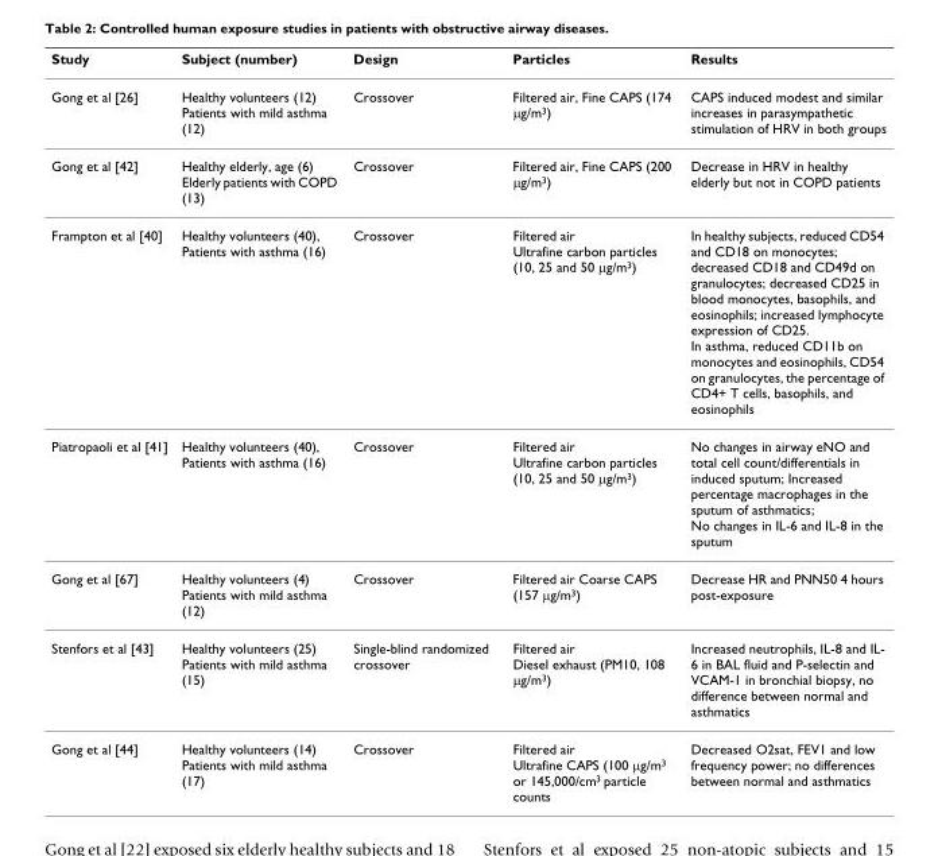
<table><thead><tr><td>Study</td><td>Subject (number)</td><td>Design</td><td>Particles</td><td>Results</td></tr></thead><tbody><tr><td>Gong et al [26]</td><td>Healthy volunteers (12) Patients with mild asthma (12)</td><td>Crossover</td><td>Filtered air, Fine CAPS (174 μg/m<sup>3</sup>)</td><td>CAPS induced modest and similar increases in parasympathetic stimulation of HRV in both groups</td></tr><tr><td>Gong et al [42]</td><td>Healthy elderly, age (6) Elderly patients with COPD (13)</td><td>Crossover</td><td>Filtered air, Fine CAPS (200 μg/m<sup>3</sup>)</td><td>Decrease in HRV in healthy elderly but not in COPD patients</td></tr><tr><td>Frampton et al [40]</td><td>Healthy volunteers (40), Patients with asthma (16)</td><td>Crossover</td><td>Filtered air Ultrafine carbon particles (10, 25 and 50 μg/m<sup>3</sup>)</td><td>In healthy subjects, reduced CD54 and CD18 on monocytes; decreased CD18 and CD49d on granulocytes; decreased CD25 in blood monocytes, basophils, and eosinophils; increased lymphocyte expression of CD25. In asthma, reduced CD11b on monocytes and eosinophils, CD54 on granulocytes, the percentage of CD4+ T cells, basophils, and eosinophils</td></tr><tr><td>Piatropaoli et al [41]</td><td>Healthy volunteers (40), Patients with asthma (16)</td><td>Crossover</td><td>Filtered air Ultrafine carbon particles (10, 25 and 50 μg/m<sup>3</sup>)</td><td>No changes in airway eNO and total cell count/differentials in induced sputum; Increased percentage macrophages in the sputum of asthmatics; No changes in IL-6 and IL-8 in the sputum</td></tr><tr><td>Gong et al [67]</td><td>Healthy volunteers (4) Patients with mild asthma (12)</td><td>Crossover</td><td>Filtered air Coarse CAPS (157 μg/m<sup>3</sup>)</td><td>Decrease HR and PNN50 4 hours post-exposure</td></tr><tr><td>Stenfors et al [43]</td><td>Healthy volunteers (25) Patients with mild asthma (15)</td><td>Single-blind randomized crossover</td><td>Filtered air Diesel exhaust (PM10, 108 μg/m<sup>3</sup>)</td><td>Increased neutrophils, IL-8 and IL- 6 in BAL fluid and P-selectin and VCAM-1 in bronchial biopsy, no difference between normal and asthmatics</td></tr><tr><td>Gong et al [44]</td><td>Healthy volunteers (14) Patients with mild asthma (17)</td><td>Crossover</td><td>Filtered air Ultrafine CAPS (100 μg/m<sup>3</sup> or 145,000/cm<sup>3</sup> particle counts</td><td>Decreased O2sat, FEV1 and low frequency power; no differences between normal and asthmatics</td></tr></tbody></table>